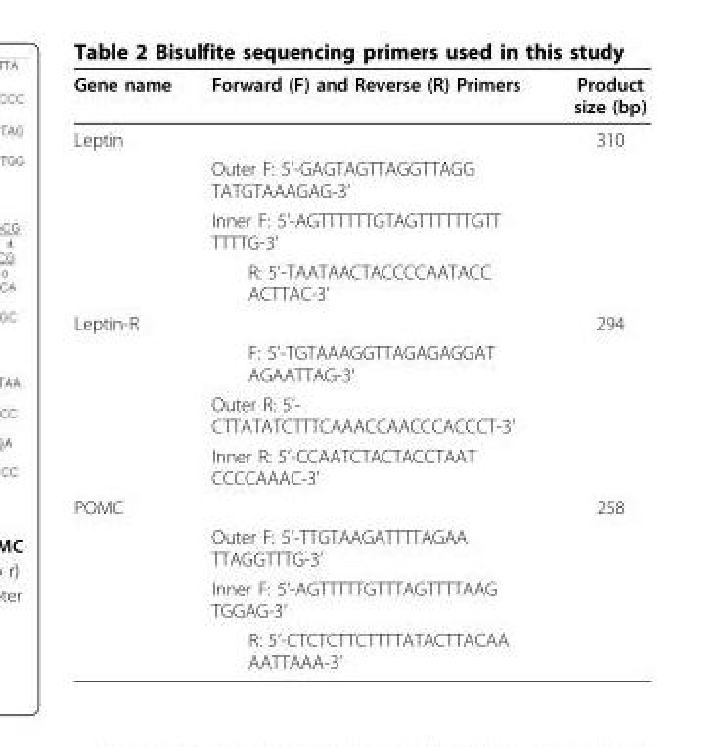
<table><thead><tr><td>Gene name</td><td>Forward (F) and Reverse (R) Primers</td><td>Product size (bp)</td></tr></thead><tbody><tr><td rowspan="4">Leptin</td><td></td><td>310</td></tr><tr><td>Outer F: 5’-GAGTAGTTAGGTTAGG TATGTAAAGAG-3’</td><td></td></tr><tr><td>Inner F: 5’-AGTTTTTTGTAGTTTTTTGTT TTTTG-3’</td><td></td></tr><tr><td>R: 5’-TAATAACTACCCCAATACC ACTTAC-3’</td><td></td></tr><tr><td rowspan="4">Leptin-R</td><td></td><td>294</td></tr><tr><td>F: 5’-TGTAAAGGTTAGAGAGGAT AGAATTAG-3’</td><td></td></tr><tr><td>Outer R: 5’- CTTATATCTTTCAAACCAACCCACCCT-3’</td><td></td></tr><tr><td>Inner R: 5’-CCAATCTACTACCTAAT CCCCAAAC-3’</td><td></td></tr><tr><td rowspan="4">POMC</td><td></td><td>258</td></tr><tr><td>Outer F: 5’-TTGTAAGATTTTAGAA TTAGGTTTG-3’</td><td></td></tr><tr><td>Inner F: 5’-AGTTTTTGTTTAGTTTTAAG TGGAG-3’</td><td></td></tr><tr><td>R: 5’-CTCTCTTCTTTTATACTTACAA AATTAAA-3’</td><td></td></tr></tbody></table>